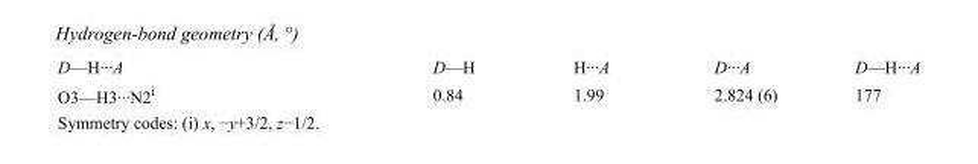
<table><tbody><tr><td>D—H···A</td><td>D—H</td><td>H···A</td><td>D···A</td><td>D—H···A</td></tr><tr><td>O3—H3···N2<sup>i</sup></td><td>0.84</td><td>1.99</td><td>2.824 (6)</td><td>177</td></tr></tbody></table>